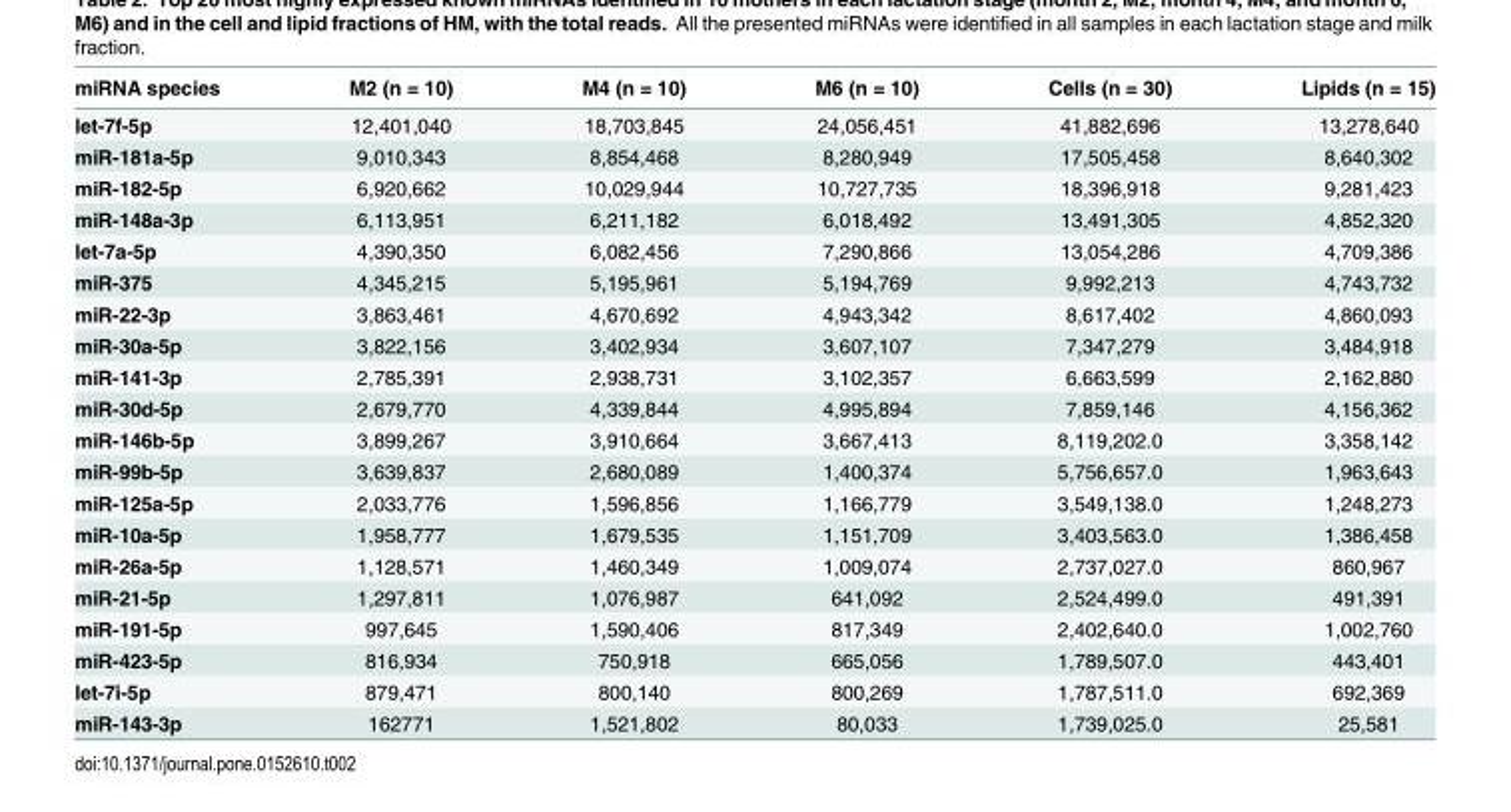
<table><thead><tr><td>miRNA species</td><td>M2 (n = 10)</td><td>M4 (n = 10)</td><td>M6 (n = 10)</td><td>Cells (n = 30)</td><td>Lipids (n = 15)</td></tr></thead><tbody><tr><td>let-7f-5p</td><td>12,401,040</td><td>18,703,845</td><td>24,056,451</td><td>41,882,696</td><td>13,278,640</td></tr><tr><td>miR-181a-5p</td><td>9,010,343</td><td>8,854,468</td><td>8,280,949</td><td>17,505,458</td><td>8,640,302</td></tr><tr><td>miR-182-5p</td><td>6,920,662</td><td>10,029,944</td><td>10,727,735</td><td>18,396,918</td><td>9,281,423</td></tr><tr><td>miR-148a-3p</td><td>6,113,951</td><td>6,211,182</td><td>6,018,492</td><td>13,491,305</td><td>4,852,320</td></tr><tr><td>let-7a-5p</td><td>4,390,350</td><td>6,082,456</td><td>7,290,866</td><td>13,054,286</td><td>4,709,386</td></tr><tr><td>miR-375</td><td>4,345,215</td><td>5,195,961</td><td>5,194,769</td><td>9,992,213</td><td>4,743,732</td></tr><tr><td>miR-22-3p</td><td>3,863,461</td><td>4,670,692</td><td>4,943,342</td><td>8,617,402</td><td>4,860,093</td></tr><tr><td>miR-30a-5p</td><td>3,822,156</td><td>3,402,934</td><td>3,607,107</td><td>7,347,279</td><td>3,484,918</td></tr><tr><td>miR-141-3p</td><td>2,785,391</td><td>2,938,731</td><td>3,102,357</td><td>6,663,599</td><td>2,162,880</td></tr><tr><td>miR-30d-5p</td><td>2,679,770</td><td>4,339,844</td><td>4,995,894</td><td>7,859,146</td><td>4,156,362</td></tr><tr><td>miR-146b-5p</td><td>3,899,267</td><td>3,910,664</td><td>3,667,413</td><td>8,119,202.0</td><td>3,358,142</td></tr><tr><td>miR-99b-5p</td><td>3,639,837</td><td>2,680,089</td><td>1,400,374</td><td>5,756,657.0</td><td>1,963,643</td></tr><tr><td>miR-125a-5p</td><td>2,033,776</td><td>1,596,856</td><td>1,166,779</td><td>3,549,138.0</td><td>1,248,273</td></tr><tr><td>miR-10a-5p</td><td>1,958,777</td><td>1,679,535</td><td>1,151,709</td><td>3,403,563.0</td><td>1,386,458</td></tr><tr><td>miR-26a-5p</td><td>1,128,571</td><td>1,460,349</td><td>1,009,074</td><td>2,737,027.0</td><td>860,967</td></tr><tr><td>miR-21-5p</td><td>1,297,811</td><td>1,076,987</td><td>641,092</td><td>2,524,499.0</td><td>491,391</td></tr><tr><td>miR-191-5p</td><td>997,645</td><td>1,590,406</td><td>817,349</td><td>2,402,640.0</td><td>1,002,760</td></tr><tr><td>miR-423-5p</td><td>816,934</td><td>750,918</td><td>665,056</td><td>1,789,507.0</td><td>443,401</td></tr><tr><td>let-7i-5p</td><td>879,471</td><td>800,140</td><td>800,269</td><td>1,787,511.0</td><td>692,369</td></tr><tr><td>miR-143-3p</td><td>162771</td><td>1,521,802</td><td>80,033</td><td>1,739,025.0</td><td>25,581</td></tr></tbody></table>